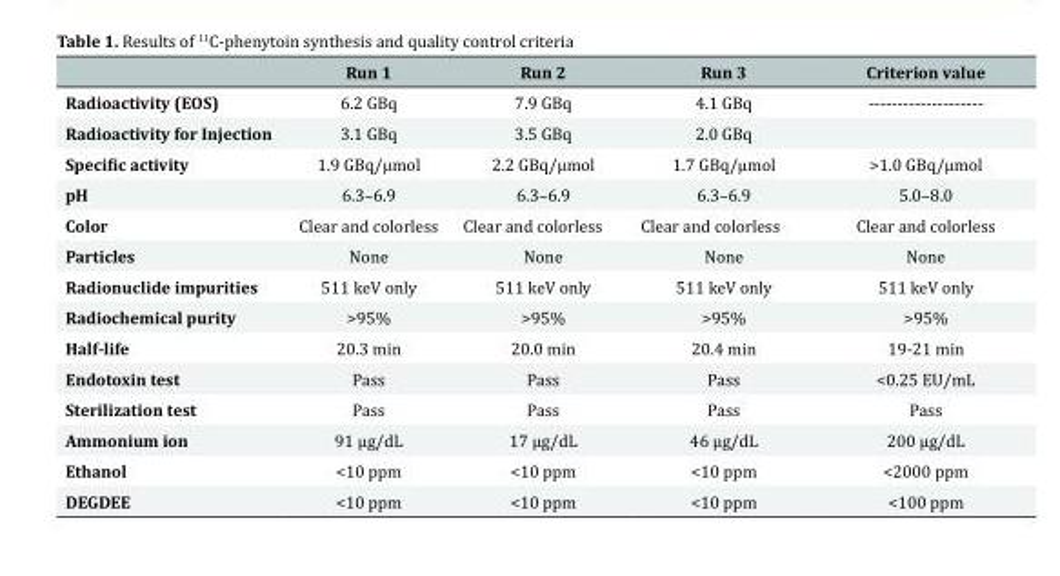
<table><thead><tr><td></td><td>Run 1</td><td>Run 2</td><td>Run 3</td><td>Criterion value</td></tr></thead><tbody><tr><td>Radioactivity (EOS)</td><td>6.2 GBq</td><td>7.9 GBq</td><td>4.1 GBq</td><td>--------------------</td></tr><tr><td>Radioactivity for Injection</td><td>3.1 GBq</td><td>3.5 GBq</td><td>2.0 GBq</td><td></td></tr><tr><td>Specific activity</td><td>1.9 GBq/μmol</td><td>2.2 GBq/μmol</td><td>1.7 GBq/μmol</td><td>&gt;1.0 GBq/μmol</td></tr><tr><td>pH</td><td>6.3–6.9</td><td>6.3–6.9</td><td>6.3–6.9</td><td>5.0–8.0</td></tr><tr><td>Color</td><td>Clear and colorless</td><td>Clear and colorless</td><td>Clear and colorless</td><td>Clear and colorless</td></tr><tr><td>Particles</td><td>None</td><td>None</td><td>None</td><td>None</td></tr><tr><td>Radionuclide impurities</td><td>511 keV only</td><td>511 keV only</td><td>511 keV only</td><td>511 keV only</td></tr><tr><td>Radiochemical purity</td><td>&gt;95%</td><td>&gt;95%</td><td>&gt;95%</td><td>&gt;95%</td></tr><tr><td>Half-life</td><td>20.3 min</td><td>20.0 min</td><td>20.4 min</td><td>19-21 min</td></tr><tr><td>Endotoxin test</td><td>Pass</td><td>Pass</td><td>Pass</td><td>&lt;0.25 EU/mL</td></tr><tr><td>Sterilization test</td><td>Pass</td><td>Pass</td><td>Pass</td><td>Pass</td></tr><tr><td>Ammonium ion</td><td>91 μg/dL</td><td>17 μg/dL</td><td>46 μg/dL</td><td>200 μg/dL</td></tr><tr><td>Ethanol</td><td>&lt;10 ppm</td><td>&lt;10 ppm</td><td>&lt;10 ppm</td><td>&lt;2000 ppm</td></tr><tr><td>DEGDEE</td><td>&lt;10 ppm</td><td>&lt;10 ppm</td><td>&lt;10 ppm</td><td>&lt;100 ppm</td></tr></tbody></table>